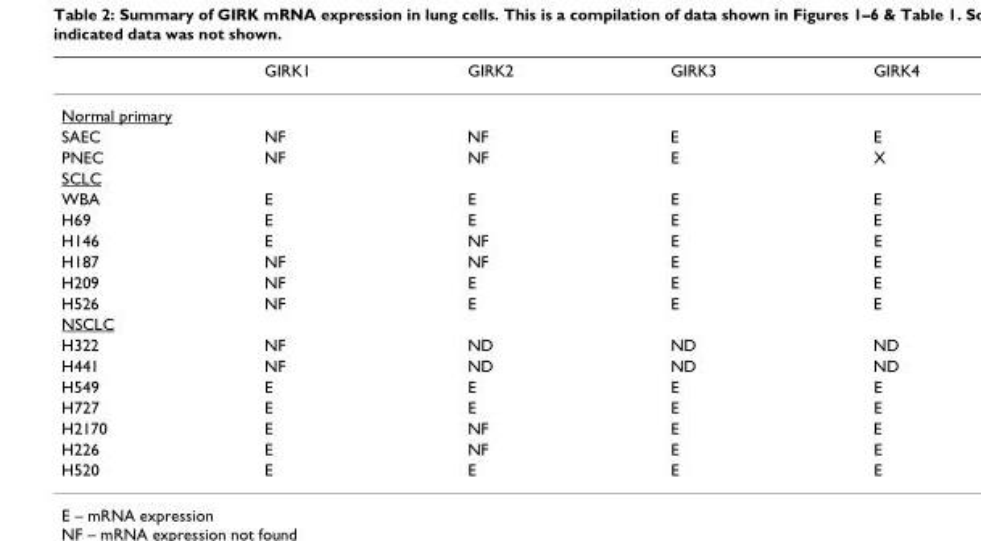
<table><thead><tr><td></td><td>GIRK1</td><td>GIRK2</td><td>GIRK3</td><td>GIRK4</td></tr></thead><tbody><tr><td colspan="5">Normal primary</td></tr><tr><td>SAEC</td><td>NF</td><td>NF</td><td>E</td><td>E</td></tr><tr><td>PNEC</td><td>NF</td><td>NF</td><td>E</td><td>X</td></tr><tr><td colspan="5">SCLC</td></tr><tr><td>WBA</td><td>E</td><td>E</td><td>E</td><td>E</td></tr><tr><td>H69</td><td>E</td><td>E</td><td>E</td><td>E</td></tr><tr><td>H146</td><td>E</td><td>NF</td><td>E</td><td>E</td></tr><tr><td>H187</td><td>NF</td><td>NF</td><td>E</td><td>E</td></tr><tr><td>H209</td><td>NF</td><td>E</td><td>E</td><td>E</td></tr><tr><td>H526</td><td>NF</td><td>E</td><td>E</td><td>E</td></tr><tr><td colspan="5">NSCLC</td></tr><tr><td>H322</td><td>NF</td><td>ND</td><td>ND</td><td>ND</td></tr><tr><td>H441</td><td>NF</td><td>ND</td><td>ND</td><td>ND</td></tr><tr><td>H549</td><td>E</td><td>E</td><td>E</td><td>E</td></tr><tr><td>H727</td><td>E</td><td>E</td><td>E</td><td>E</td></tr><tr><td>H2170</td><td>E</td><td>NF</td><td>E</td><td>E</td></tr><tr><td>H226</td><td>E</td><td>NF</td><td>E</td><td>E</td></tr><tr><td>H520</td><td>E</td><td>E</td><td>E</td><td>E</td></tr></tbody></table>